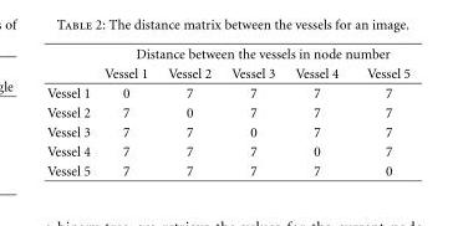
<table><thead><tr><td rowspan="2"></td><td colspan="5">Distance between the vessels in node number</td></tr><tr><td>Vessel 1</td><td>Vessel 2</td><td>Vessel 3</td><td>Vessel 4</td><td>Vessel 5</td></tr></thead><tbody><tr><td>Vessel 1</td><td>0</td><td>7</td><td>7</td><td>7</td><td>7</td></tr><tr><td>Vessel 2</td><td>7</td><td>0</td><td>7</td><td>7</td><td>7</td></tr><tr><td>Vessel 3</td><td>7</td><td>7</td><td>0</td><td>7</td><td>7</td></tr><tr><td>Vessel 4</td><td>7</td><td>7</td><td>7</td><td>0</td><td>7</td></tr><tr><td>Vessel 5</td><td>7</td><td>7</td><td>7</td><td>7</td><td>0</td></tr></tbody></table>